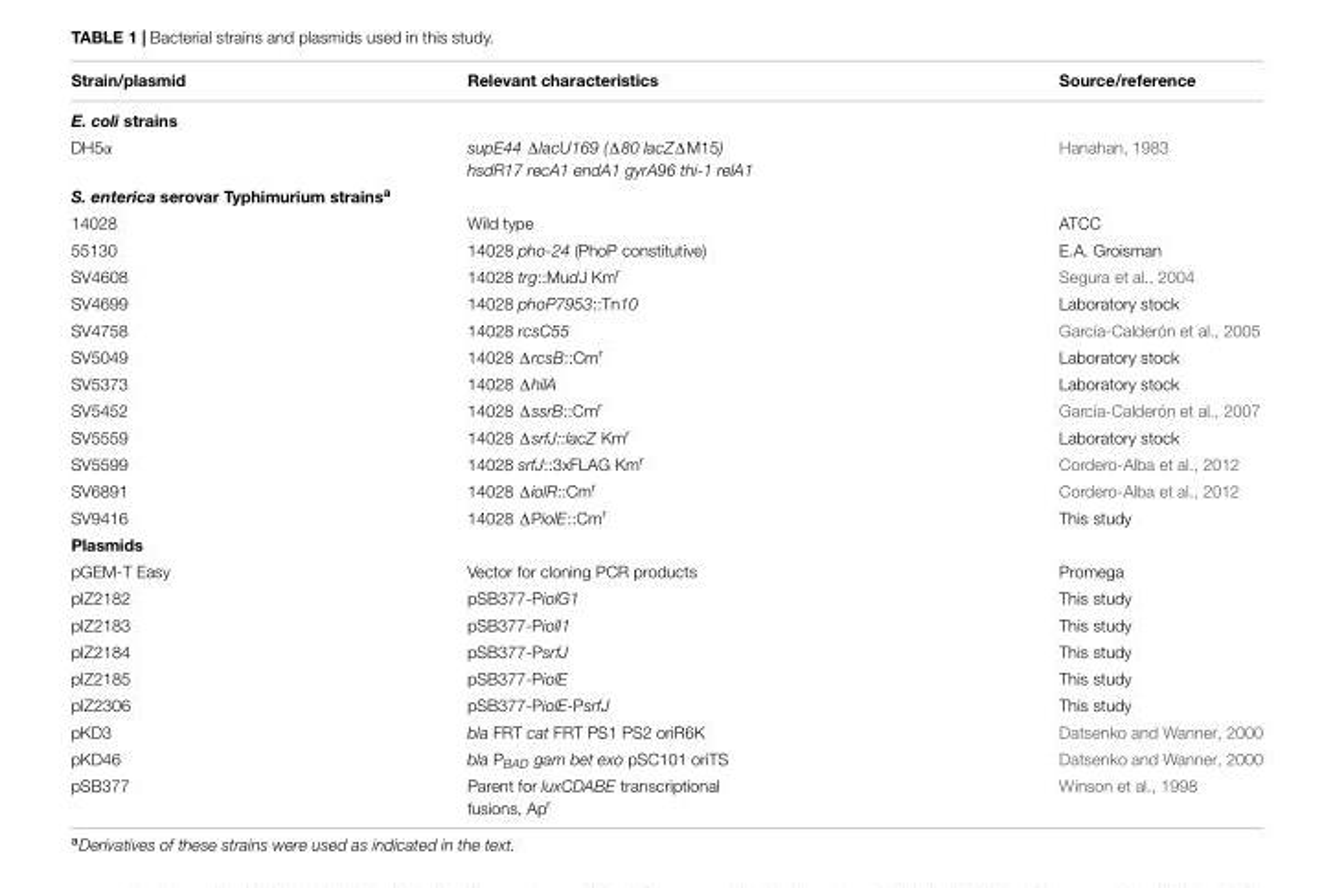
<table><thead><tr><td>Strain/plasmid</td><td>Relevant characteristics</td><td>Source/reference</td></tr></thead><tbody><tr><td colspan="3">E. coli strains</td></tr><tr><td>DH5α</td><td>supE44 ΔlacU169 (Δ80 lacZΔM15) hsdR17 recA1 endA1 gyrA96 thi-1 relA1</td><td>Hanahan, 1983</td></tr><tr><td colspan="3">S. enterica serovar Typhimurium strains<sup>a</sup></td></tr><tr><td>14028</td><td>Wild type</td><td>ATCC</td></tr><tr><td>55130</td><td>14028 pho-24 (PhoP constitutive)</td><td>E.A. Groisman</td></tr><tr><td>SV4608</td><td>14028 trg::MudJ Km<sup>r</sup></td><td>Segura et al., 2004</td></tr><tr><td>SV4699</td><td>14028 phoP7953::Tn10</td><td>Laboratory stock</td></tr><tr><td>SV4758</td><td>14028 rcsC55</td><td>García-Calderón et al., 2005</td></tr><tr><td>SV5049</td><td>14028 ΔrcsB::Cm<sup>r</sup></td><td>Laboratory stock</td></tr><tr><td>SV5373</td><td>14028 ΔhilA</td><td>Laboratory stock</td></tr><tr><td>SV5452</td><td>14028 ΔssrB::Cm<sup>r</sup></td><td>García-Calderón et al., 2007</td></tr><tr><td>SV5559</td><td>14028 ΔsrfJ::lacZ Km<sup>r</sup></td><td>Laboratory stock</td></tr><tr><td>SV5599</td><td>14028 srfJ::3xFLAG Km<sup>r</sup></td><td>Cordero-Alba et al., 2012</td></tr><tr><td>SV6891</td><td>14028 ΔiolR::Cm<sup>r</sup></td><td>Cordero-Alba et al., 2012</td></tr><tr><td>SV9416</td><td>14028 ΔPiolE::Cm<sup>r</sup></td><td>This study</td></tr><tr><td colspan="3">Plasmids</td></tr><tr><td>pGEM-T Easy</td><td>Vector for cloning PCR products</td><td>Promega</td></tr><tr><td>pIZ2182</td><td>pSB377-PiolG1</td><td>This study</td></tr><tr><td>pIZ2183</td><td>pSB377-PiolI1</td><td>This study</td></tr><tr><td>pIZ2184</td><td>pSB377-PsrfJ</td><td>This study</td></tr><tr><td>pIZ2185</td><td>pSB377-PiolE</td><td>This study</td></tr><tr><td>pIZ2306</td><td>pSB377-PiolE-PsrfJ</td><td>This study</td></tr><tr><td>pKD3</td><td>bla FRT cat FRT PS1 PS2 oriR6K</td><td>Datsenko and Wanner, 2000</td></tr><tr><td>pKD46</td><td>bla P<sub>BAD</sub> gam bet exo pSC101 oriTS</td><td>Datsenko and Wanner, 2000</td></tr><tr><td>pSB377</td><td>Parent for luxCDABE transcriptional fusions, Ap<sup>r</sup></td><td>Winson et al., 1998</td></tr></tbody></table>